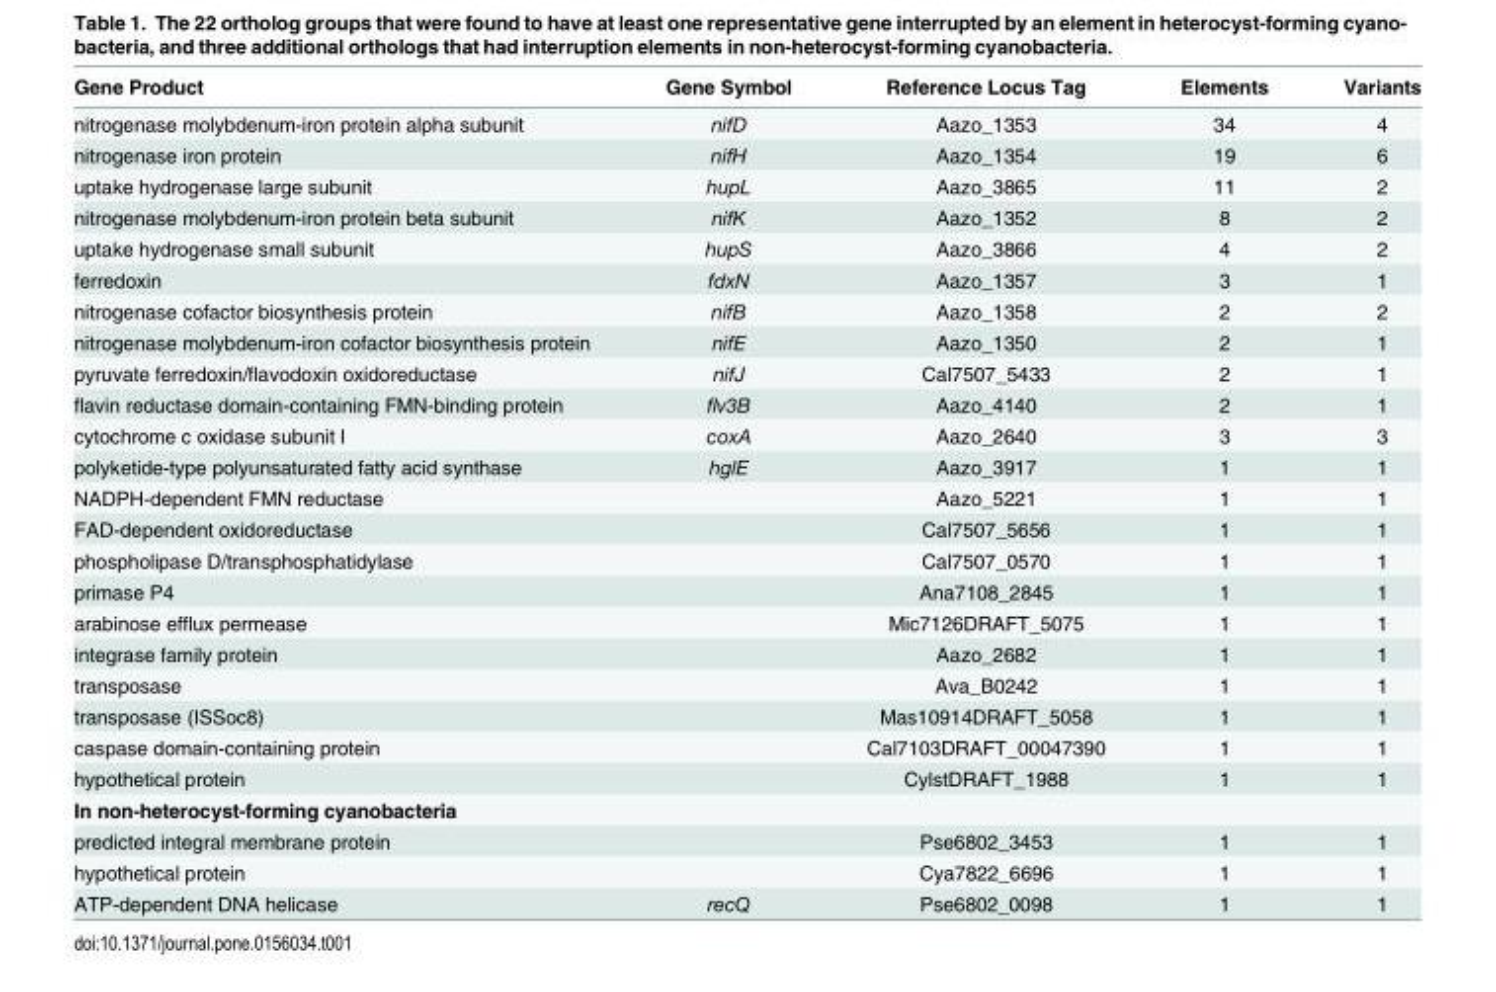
<table><thead><tr><td>Gene Product</td><td>Gene Symbol</td><td>Reference Locus Tag</td><td>Elements</td><td>Variants</td></tr></thead><tbody><tr><td>nitrogenase molybdenum-iron protein alpha subunit</td><td>nifD</td><td>Aazo_1353</td><td>34</td><td>4</td></tr><tr><td>nitrogenase iron protein</td><td>nifH</td><td>Aazo_1354</td><td>19</td><td>6</td></tr><tr><td>uptake hydrogenase large subunit</td><td>hupL</td><td>Aazo_3865</td><td>11</td><td>2</td></tr><tr><td>nitrogenase molybdenum-iron protein beta subunit</td><td>nifK</td><td>Aazo_1352</td><td>8</td><td>2</td></tr><tr><td>uptake hydrogenase small subunit</td><td>hupS</td><td>Aazo_3866</td><td>4</td><td>2</td></tr><tr><td>ferredoxin</td><td>fdxN</td><td>Aazo_1357</td><td>3</td><td>1</td></tr><tr><td>nitrogenase cofactor biosynthesis protein</td><td>nifB</td><td>Aazo_1358</td><td>2</td><td>2</td></tr><tr><td>nitrogenase molybdenum-iron cofactor biosynthesis protein</td><td>nifE</td><td>Aazo_1350</td><td>2</td><td>1</td></tr><tr><td>pyruvate ferredoxin/flavodoxin oxidoreductase</td><td>nifJ</td><td>Cal7507_5433</td><td>2</td><td>1</td></tr><tr><td>flavin reductase domain-containing FMN-binding protein</td><td>flv3B</td><td>Aazo_4140</td><td>2</td><td>1</td></tr><tr><td>cytochrome c oxidase subunit I</td><td>coxA</td><td>Aazo_2640</td><td>3</td><td>3</td></tr><tr><td>polyketide-type polyunsaturated fatty acid synthase</td><td>hglE</td><td>Aazo_3917</td><td>1</td><td>1</td></tr><tr><td>NADPH-dependent FMN reductase</td><td></td><td>Aazo_5221</td><td>1</td><td>1</td></tr><tr><td>FAD-dependent oxidoreductase</td><td></td><td>Cal7507_5656</td><td>1</td><td>1</td></tr><tr><td>phospholipase D/transphosphatidylase</td><td></td><td>Cal7507_0570</td><td>1</td><td>1</td></tr><tr><td>primase P4</td><td></td><td>Ana7108_2845</td><td>1</td><td>1</td></tr><tr><td>arabinose efflux permease</td><td></td><td>Mic7126DRAFT_5075</td><td>1</td><td>1</td></tr><tr><td>integrase family protein</td><td></td><td>Aazo_2682</td><td>1</td><td>1</td></tr><tr><td>transposase</td><td></td><td>Ava_B0242</td><td>1</td><td>1</td></tr><tr><td>transposase (ISSoc8)</td><td></td><td>Mas10914DRAFT_5058</td><td>1</td><td>1</td></tr><tr><td>caspase domain-containing protein</td><td></td><td>Cal7103DRAFT_00047390</td><td>1</td><td>1</td></tr><tr><td>hypothetical protein</td><td></td><td>CylstDRAFT_1988</td><td>1</td><td>1</td></tr><tr><td colspan="5">In non-heterocyst-forming cyanobacteria</td></tr><tr><td>predicted integral membrane protein</td><td></td><td>Pse6802_3453</td><td>1</td><td>1</td></tr><tr><td>hypothetical protein</td><td></td><td>Cya7822_6696</td><td>1</td><td>1</td></tr><tr><td>ATP-dependent DNA helicase</td><td>recQ</td><td>Pse6802_0098</td><td>1</td><td>1</td></tr></tbody></table>